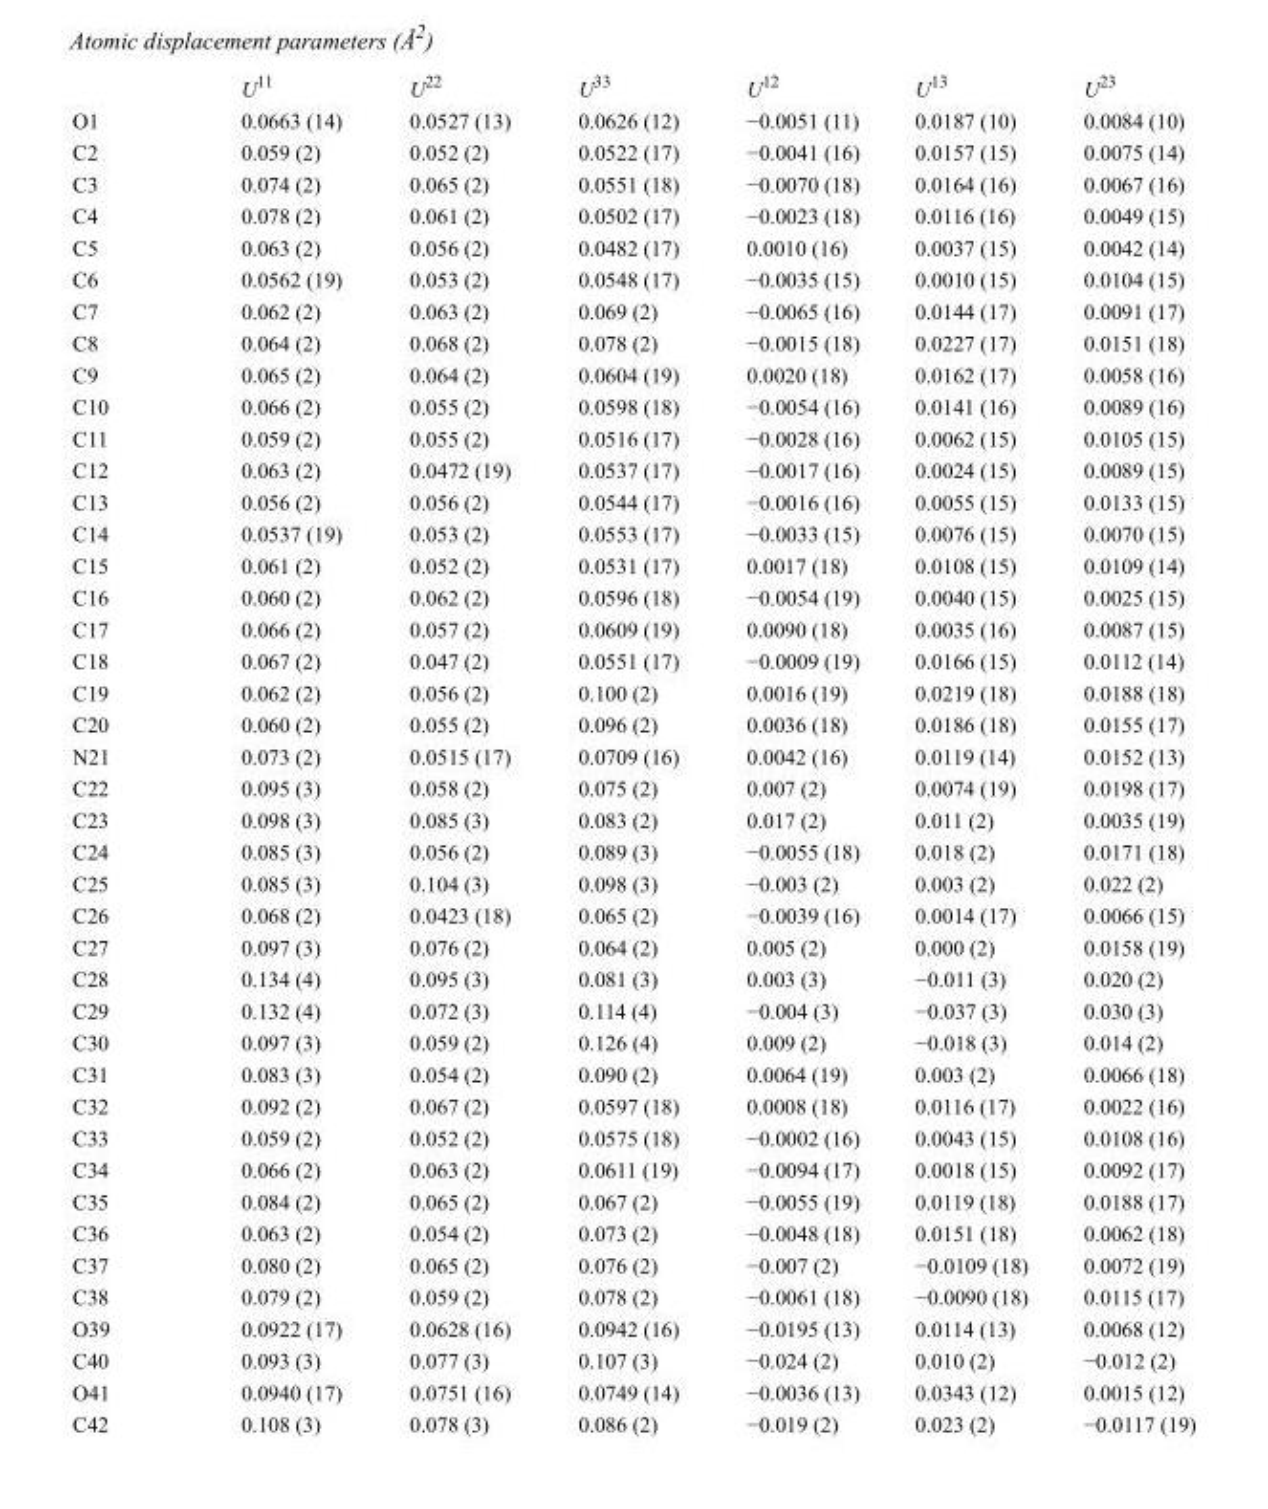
<table><thead><tr><td></td><td>U<sup>11</sup></td><td>U<sup>22</sup></td><td>U<sup>33</sup></td><td>U<sup>12</sup></td><td>U<sup>13</sup></td><td>U<sup>23</sup></td></tr></thead><tbody><tr><td>O1</td><td>0.0663 (14)</td><td>0.0527 (13)</td><td>0.0626 (12)</td><td>−0.0051 (11)</td><td>0.0187 (10)</td><td>0.0084 (10)</td></tr><tr><td>C2</td><td>0.059 (2)</td><td>0.052 (2)</td><td>0.0522 (17)</td><td>−0.0041 (16)</td><td>0.0157 (15)</td><td>0.0075 (14)</td></tr><tr><td>C3</td><td>0.074 (2)</td><td>0.065 (2)</td><td>0.0551 (18)</td><td>−0.0070 (18)</td><td>0.0164 (16)</td><td>0.0067 (16)</td></tr><tr><td>C4</td><td>0.078 (2)</td><td>0.061 (2)</td><td>0.0502 (17)</td><td>−0.0023 (18)</td><td>0.0116 (16)</td><td>0.0049 (15)</td></tr><tr><td>C5</td><td>0.063 (2)</td><td>0.056 (2)</td><td>0.0482 (17)</td><td>0.0010 (16)</td><td>0.0037 (15)</td><td>0.0042 (14)</td></tr><tr><td>C6</td><td>0.0562 (19)</td><td>0.053 (2)</td><td>0.0548 (17)</td><td>−0.0035 (15)</td><td>0.0010 (15)</td><td>0.0104 (15)</td></tr><tr><td>C7</td><td>0.062 (2)</td><td>0.063 (2)</td><td>0.069 (2)</td><td>−0.0065 (16)</td><td>0.0144 (17)</td><td>0.0091 (17)</td></tr><tr><td>C8</td><td>0.064 (2)</td><td>0.068 (2)</td><td>0.078 (2)</td><td>−0.0015 (18)</td><td>0.0227 (17)</td><td>0.0151 (18)</td></tr><tr><td>C9</td><td>0.065 (2)</td><td>0.064 (2)</td><td>0.0604 (19)</td><td>0.0020 (18)</td><td>0.0162 (17)</td><td>0.0058 (16)</td></tr><tr><td>C10</td><td>0.066 (2)</td><td>0.055 (2)</td><td>0.0598 (18)</td><td>−0.0054 (16)</td><td>0.0141 (16)</td><td>0.0089 (16)</td></tr><tr><td>C11</td><td>0.059 (2)</td><td>0.055 (2)</td><td>0.0516 (17)</td><td>−0.0028 (16)</td><td>0.0062 (15)</td><td>0.0105 (15)</td></tr><tr><td>C12</td><td>0.063 (2)</td><td>0.0472 (19)</td><td>0.0537 (17)</td><td>−0.0017 (16)</td><td>0.0024 (15)</td><td>0.0089 (15)</td></tr><tr><td>C13</td><td>0.056 (2)</td><td>0.056 (2)</td><td>0.0544 (17)</td><td>−0.0016 (16)</td><td>0.0055 (15)</td><td>0.0133 (15)</td></tr><tr><td>C14</td><td>0.0537 (19)</td><td>0.053 (2)</td><td>0.0553 (17)</td><td>−0.0033 (15)</td><td>0.0076 (15)</td><td>0.0070 (15)</td></tr><tr><td>C15</td><td>0.061 (2)</td><td>0.052 (2)</td><td>0.0531 (17)</td><td>0.0017 (18)</td><td>0.0108 (15)</td><td>0.0109 (14)</td></tr><tr><td>C16</td><td>0.060 (2)</td><td>0.062 (2)</td><td>0.0596 (18)</td><td>−0.0054 (19)</td><td>0.0040 (15)</td><td>0.0025 (15)</td></tr><tr><td>C17</td><td>0.066 (2)</td><td>0.057 (2)</td><td>0.0609 (19)</td><td>0.0090 (18)</td><td>0.0035 (16)</td><td>0.0087 (15)</td></tr><tr><td>C18</td><td>0.067 (2)</td><td>0.047 (2)</td><td>0.0551 (17)</td><td>−0.0009 (19)</td><td>0.0166 (15)</td><td>0.0112 (14)</td></tr><tr><td>C19</td><td>0.062 (2)</td><td>0.056 (2)</td><td>0.100 (2)</td><td>0.0016 (19)</td><td>0.0219 (18)</td><td>0.0188 (18)</td></tr><tr><td>C20</td><td>0.060 (2)</td><td>0.055 (2)</td><td>0.096 (2)</td><td>0.0036 (18)</td><td>0.0186 (18)</td><td>0.0155 (17)</td></tr><tr><td>N21</td><td>0.073 (2)</td><td>0.0515 (17)</td><td>0.0709 (16)</td><td>0.0042 (16)</td><td>0.0119 (14)</td><td>0.0152 (13)</td></tr><tr><td>C22</td><td>0.095 (3)</td><td>0.058 (2)</td><td>0.075 (2)</td><td>0.007 (2)</td><td>0.0074 (19)</td><td>0.0198 (17)</td></tr><tr><td>C23</td><td>0.098 (3)</td><td>0.085 (3)</td><td>0.083 (2)</td><td>0.017 (2)</td><td>0.011 (2)</td><td>0.0035 (19)</td></tr><tr><td>C24</td><td>0.085 (3)</td><td>0.056 (2)</td><td>0.089 (3)</td><td>−0.0055 (18)</td><td>0.018 (2)</td><td>0.0171 (18)</td></tr><tr><td>C25</td><td>0.085 (3)</td><td>0.104 (3)</td><td>0.098 (3)</td><td>−0.003 (2)</td><td>0.003 (2)</td><td>0.022 (2)</td></tr><tr><td>C26</td><td>0.068 (2)</td><td>0.0423 (18)</td><td>0.065 (2)</td><td>−0.0039 (16)</td><td>0.0014 (17)</td><td>0.0066 (15)</td></tr><tr><td>C27</td><td>0.097 (3)</td><td>0.076 (2)</td><td>0.064 (2)</td><td>0.005 (2)</td><td>0.000 (2)</td><td>0.0158 (19)</td></tr><tr><td>C28</td><td>0.134 (4)</td><td>0.095 (3)</td><td>0.081 (3)</td><td>0.003 (3)</td><td>−0.011 (3)</td><td>0.020 (2)</td></tr><tr><td>C29</td><td>0.132 (4)</td><td>0.072 (3)</td><td>0.114 (4)</td><td>−0.004 (3)</td><td>−0.037 (3)</td><td>0.030 (3)</td></tr><tr><td>C30</td><td>0.097 (3)</td><td>0.059 (2)</td><td>0.126 (4)</td><td>0.009 (2)</td><td>−0.018 (3)</td><td>0.014 (2)</td></tr><tr><td>C31</td><td>0.083 (3)</td><td>0.054 (2)</td><td>0.090 (2)</td><td>0.0064 (19)</td><td>0.003 (2)</td><td>0.0066 (18)</td></tr><tr><td>C32</td><td>0.092 (2)</td><td>0.067 (2)</td><td>0.0597 (18)</td><td>0.0008 (18)</td><td>0.0116 (17)</td><td>0.0022 (16)</td></tr><tr><td>C33</td><td>0.059 (2)</td><td>0.052 (2)</td><td>0.0575 (18)</td><td>−0.0002 (16)</td><td>0.0043 (15)</td><td>0.0108 (16)</td></tr><tr><td>C34</td><td>0.066 (2)</td><td>0.063 (2)</td><td>0.0611 (19)</td><td>−0.0094 (17)</td><td>0.0018 (15)</td><td>0.0092 (17)</td></tr><tr><td>C35</td><td>0.084 (2)</td><td>0.065 (2)</td><td>0.067 (2)</td><td>−0.0055 (19)</td><td>0.0119 (18)</td><td>0.0188 (17)</td></tr><tr><td>C36</td><td>0.063 (2)</td><td>0.054 (2)</td><td>0.073 (2)</td><td>−0.0048 (18)</td><td>0.0151 (18)</td><td>0.0062 (18)</td></tr><tr><td>C37</td><td>0.080 (2)</td><td>0.065 (2)</td><td>0.076 (2)</td><td>−0.007 (2)</td><td>−0.0109 (18)</td><td>0.0072 (19)</td></tr><tr><td>C38</td><td>0.079 (2)</td><td>0.059 (2)</td><td>0.078 (2)</td><td>−0.0061 (18)</td><td>−0.0090 (18)</td><td>0.0115 (17)</td></tr><tr><td>O39</td><td>0.0922 (17)</td><td>0.0628 (16)</td><td>0.0942 (16)</td><td>−0.0195 (13)</td><td>0.0114 (13)</td><td>0.0068 (12)</td></tr><tr><td>C40</td><td>0.093 (3)</td><td>0.077 (3)</td><td>0.107 (3)</td><td>−0.024 (2)</td><td>0.010 (2)</td><td>−0.012 (2)</td></tr><tr><td>O41</td><td>0.0940 (17)</td><td>0.0751 (16)</td><td>0.0749 (14)</td><td>−0.0036 (13)</td><td>0.0343 (12)</td><td>0.0015 (12)</td></tr><tr><td>C42</td><td>0.108 (3)</td><td>0.078 (3)</td><td>0.086 (2)</td><td>−0.019 (2)</td><td>0.023 (2)</td><td>−0.0117 (19)</td></tr></tbody></table>